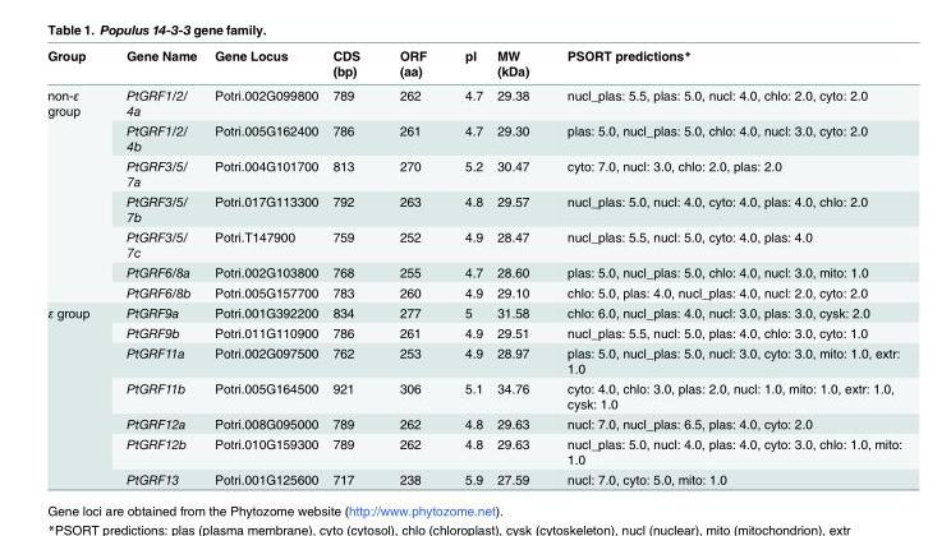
<table><thead><tr><td>Group</td><td>Gene Name</td><td>Gene Locus</td><td>CDS (bp)</td><td>ORF (aa)</td><td>pI</td><td>MW (kDa)</td><td>PSORT predictions*</td></tr></thead><tbody><tr><td rowspan="7">non-ε group</td><td>PtGRF1/2/ 4a</td><td>Potri.002G099800</td><td>789</td><td>262</td><td>4.7</td><td>29.38</td><td>nucl_plas: 5.5, plas: 5.0, nucl: 4.0, chlo: 2.0, cyto: 2.0</td></tr><tr><td>PtGRF1/2/ 4b</td><td>Potri.005G162400</td><td>786</td><td>261</td><td>4.7</td><td>29.30</td><td>plas: 5.0, nucl_plas: 5.0, chlo: 4.0, nucl: 3.0, cyto: 2.0</td></tr><tr><td>PtGRF3/5/ 7a</td><td>Potri.004G101700</td><td>813</td><td>270</td><td>5.2</td><td>30.47</td><td>cyto: 7.0, nucl: 3.0, chlo: 2.0, plas: 2.0</td></tr><tr><td>PtGRF3/5/ 7b</td><td>Potri.017G113300</td><td>792</td><td>263</td><td>4.8</td><td>29.57</td><td>nucl_plas: 5.0, nucl: 4.0, cyto: 4.0, plas: 4.0, chlo: 2.0</td></tr><tr><td>PtGRF3/5/ 7c</td><td>Potri.T147900</td><td>759</td><td>252</td><td>4.9</td><td>28.47</td><td>nucl_plas: 5.5, nucl: 5.0, cyto: 4.0, plas: 4.0</td></tr><tr><td>PtGRF6/8a</td><td>Potri.002G103800</td><td>768</td><td>255</td><td>4.7</td><td>28.60</td><td>plas: 5.0, nucl_plas: 5.0, chlo: 4.0, nucl: 3.0, mito: 1.0</td></tr><tr><td>PtGRF6/8b</td><td>Potri.005G157700</td><td>783</td><td>260</td><td>4.9</td><td>29.10</td><td>chlo: 5.0, plas: 4.0, nucl_plas: 4.0, nucl: 2.0, cyto: 2.0</td></tr><tr><td rowspan="7">ε group</td><td>PtGRF9a</td><td>Potri.001G392200</td><td>834</td><td>277</td><td>5</td><td>31.58</td><td>chlo: 6.0, nucl_plas: 4.0, nucl: 3.0, plas: 3.0, cysk: 2.0</td></tr><tr><td>PtGRF9b</td><td>Potri.011G110900</td><td>786</td><td>261</td><td>4.9</td><td>29.51</td><td>nucl_plas: 5.5, nucl: 5.0, plas: 4.0, chlo: 3.0, cyto: 1.0</td></tr><tr><td>PtGRF11a</td><td>Potri.002G097500</td><td>762</td><td>253</td><td>4.9</td><td>28.97</td><td>plas: 5.0, nucl_plas: 5.0, nucl: 3.0, cyto: 3.0, mito: 1.0, extr: 1.0</td></tr><tr><td>PtGRF11b</td><td>Potri.005G164500</td><td>921</td><td>306</td><td>5.1</td><td>34.76</td><td>cyto: 4.0, chlo: 3.0, plas: 2.0, nucl: 1.0, mito: 1.0, extr: 1.0, cysk: 1.0</td></tr><tr><td>PtGRF12a</td><td>Potri.008G095000</td><td>789</td><td>262</td><td>4.8</td><td>29.63</td><td>nucl: 7.0, nucl_plas: 6.5, plas: 4.0, cyto: 2.0</td></tr><tr><td>PtGRF12b</td><td>Potri.010G159300</td><td>789</td><td>262</td><td>4.8</td><td>29.63</td><td>nucl_plas: 5.0, nucl: 4.0, plas: 4.0, cyto: 3.0, chlo: 1.0, mito: 1.0</td></tr><tr><td>PtGRF13</td><td>Potri.001G125600</td><td>717</td><td>238</td><td>5.9</td><td>27.59</td><td>nucl: 7.0, cyto: 5.0, mito: 1.0</td></tr></tbody></table>